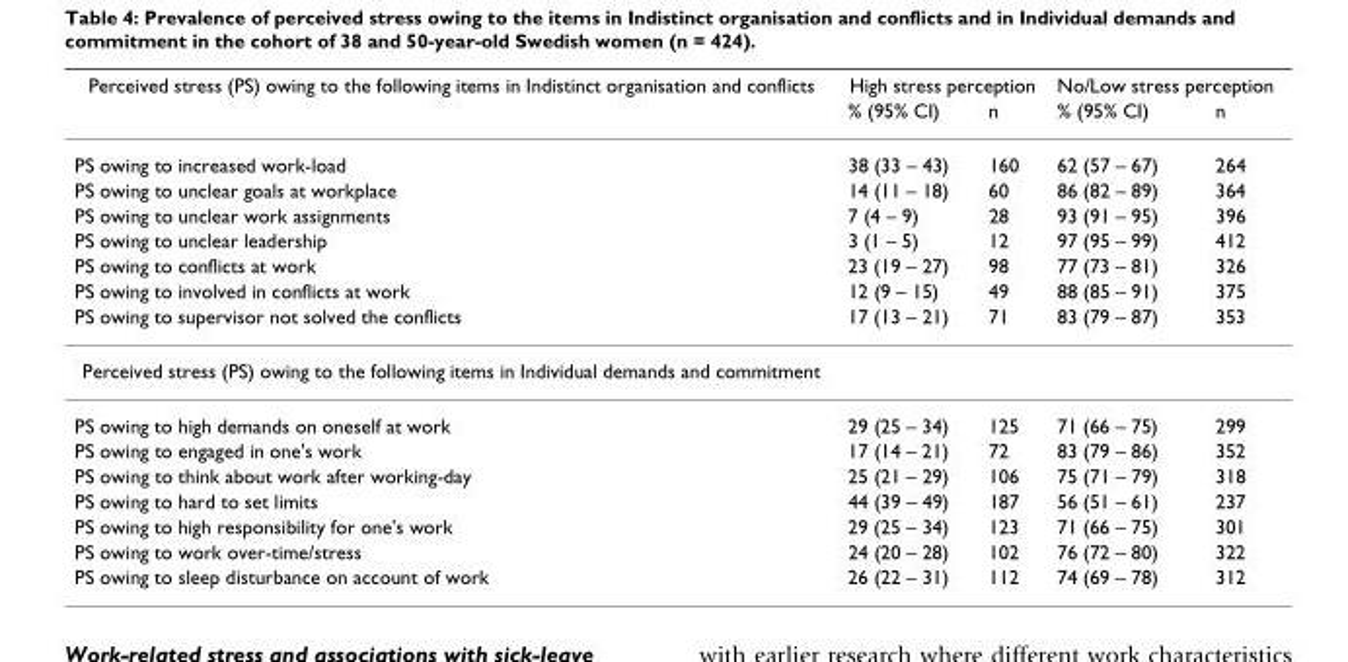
<table><thead><tr><td rowspan="2">Perceived stress (PS) owing to the following items in Indistinct organisation and conflicts</td><td colspan="2">High stress perception</td><td colspan="2">No/Low stress perception</td></tr><tr><td>% (95% CI)</td><td>n</td><td>% (95% CI)</td><td>n</td></tr></thead><tbody><tr><td>PS owing to increased work-load</td><td>38 (33 – 43)</td><td>160</td><td>62 (57 – 67)</td><td>264</td></tr><tr><td>PS owing to unclear goals at workplace</td><td>14 (11 – 18)</td><td>60</td><td>86 (82 – 89)</td><td>364</td></tr><tr><td>PS owing to unclear work assignments</td><td>7 (4 – 9)</td><td>28</td><td>93 (91 – 95)</td><td>396</td></tr><tr><td>PS owing to unclear leadership</td><td>3 (1 – 5)</td><td>12</td><td>97 (95 – 99)</td><td>412</td></tr><tr><td>PS owing to conflicts at work</td><td>23 (19 – 27)</td><td>98</td><td>77 (73 – 81)</td><td>326</td></tr><tr><td>PS owing to involved in conflicts at work</td><td>12 (9 – 15)</td><td>49</td><td>88 (85 – 91)</td><td>375</td></tr><tr><td>PS owing to supervisor not solved the conflicts</td><td>17 (13 – 21)</td><td>71</td><td>83 (79 – 87)</td><td>353</td></tr><tr><td colspan="5">Perceived stress (PS) owing to the following items in Individual demands and commitment</td></tr><tr><td>PS owing to high demands on oneself at work</td><td>29 (25 – 34)</td><td>125</td><td>71 (66 – 75)</td><td>299</td></tr><tr><td>PS owing to engaged in one&#x27;s work</td><td>17 (14 – 21)</td><td>72</td><td>83 (79 – 86)</td><td>352</td></tr><tr><td>PS owing to think about work after working-day</td><td>25 (21 – 29)</td><td>106</td><td>75 (71 – 79)</td><td>318</td></tr><tr><td>PS owing to hard to set limits</td><td>44 (39 – 49)</td><td>187</td><td>56 (51 – 61)</td><td>237</td></tr><tr><td>PS owing to high responsibility for one&#x27;s work</td><td>29 (25 – 34)</td><td>123</td><td>71 (66 – 75)</td><td>301</td></tr><tr><td>PS owing to work over-time/stress</td><td>24 (20 – 28)</td><td>102</td><td>76 (72 – 80)</td><td>322</td></tr><tr><td>PS owing to sleep disturbance on account of work</td><td>26 (22 – 31)</td><td>112</td><td>74 (69 – 78)</td><td>312</td></tr></tbody></table>